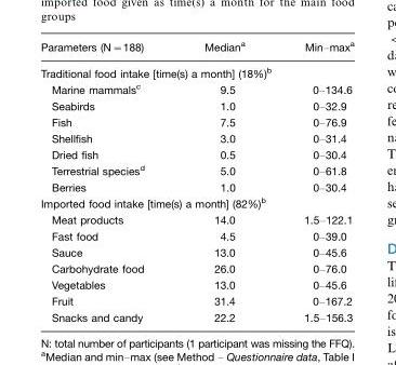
<table><thead><tr><td>Parameters (N=188)</td><td>Median<sup>a</sup></td><td>Min–max<sup>a</sup></td></tr></thead><tbody><tr><td colspan="3">Traditional food intake [time(s) a month] (18%)<sup>b</sup></td></tr><tr><td>Marine mammals<sup>c</sup></td><td>9.5</td><td>0–134.6</td></tr><tr><td>Seabirds</td><td>1.0</td><td>0–32.9</td></tr><tr><td>Fish</td><td>7.5</td><td>0–76.9</td></tr><tr><td>Shellfish</td><td>3.0</td><td>0–31.4</td></tr><tr><td>Dried fish</td><td>0.5</td><td>0–30.4</td></tr><tr><td>Terrestrial species<sup>d</sup></td><td>5.0</td><td>0–61.8</td></tr><tr><td>Berries</td><td>1.0</td><td>0–30.4</td></tr><tr><td colspan="3">Imported food intake [time(s) a month] (82%)<sup>b</sup></td></tr><tr><td>Meat products</td><td>14.0</td><td>1.5–122.1</td></tr><tr><td>Fast food</td><td>4.5</td><td>0–39.0</td></tr><tr><td>Sauce</td><td>13.0</td><td>0–45.6</td></tr><tr><td>Carbohydrate food</td><td>26.0</td><td>0–76.0</td></tr><tr><td>Vegetables</td><td>13.0</td><td>0–45.6</td></tr><tr><td>Fruit</td><td>31.4</td><td>0–167.2</td></tr><tr><td>Snacks and candy</td><td>22.2</td><td>1.5–156.3</td></tr></tbody></table>